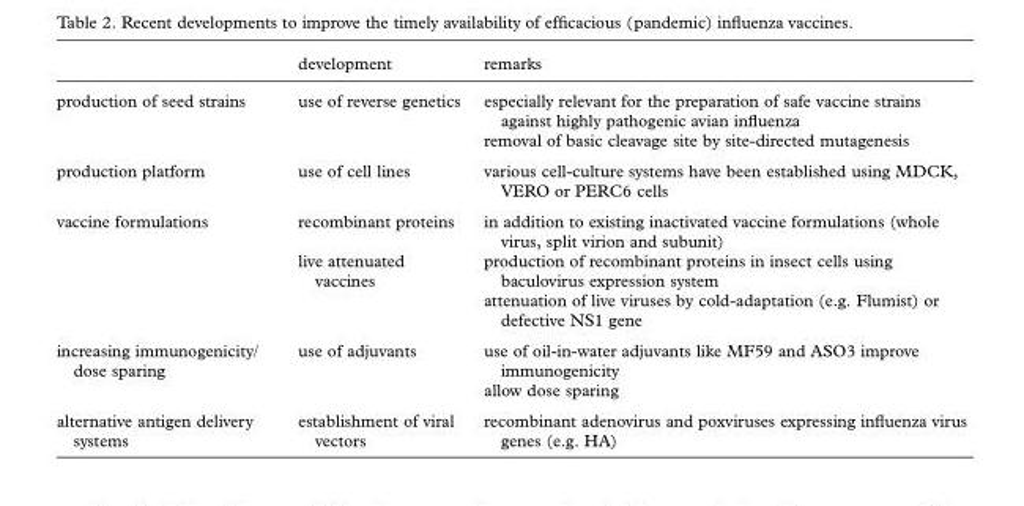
<table><thead><tr><td></td><td>development</td><td>remarks</td></tr></thead><tbody><tr><td rowspan="2">production of seed strains</td><td rowspan="2">use of reverse genetics</td><td>especially relevant for the preparation of safe vaccine strains against highly pathogenic avian influenza</td></tr><tr><td>removal of basic cleavage site by site-directed mutagenesis</td></tr><tr><td>production platform</td><td>use of cell lines</td><td>various cell-culture systems have been established using MDCK, VERO or PERC6 cells</td></tr><tr><td rowspan="3">vaccine formulations</td><td>recombinant proteins</td><td>in addition to existing inactivated vaccine formulations (whole virus, split virion and subunit)</td></tr><tr><td rowspan="2">live attenuated vaccines</td><td>production of recombinant proteins in insect cells using baculovirus expression system</td></tr><tr><td>attenuation of live viruses by cold-adaptation (e.g. Flumist) or defective NS1 gene</td></tr><tr><td rowspan="2">increasing immunogenicity/ dose sparing</td><td rowspan="2">use of adjuvants</td><td>use of oil-in-water adjuvants like MF59 and ASO3 improve immunogenicity</td></tr><tr><td>allow dose sparing</td></tr><tr><td>alternative antigen delivery systems</td><td>establishment of viral vectors</td><td>recombinant adenovirus and poxviruses expressing influenza virus genes (e.g. HA)</td></tr></tbody></table>